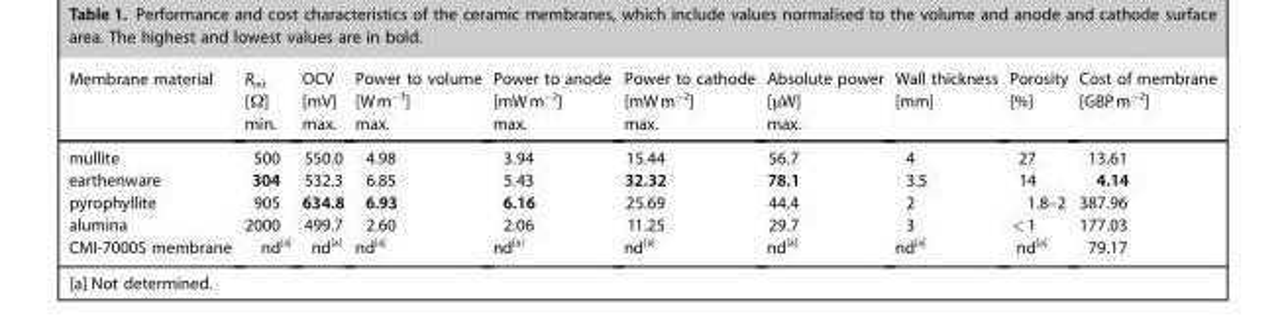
<table><thead><tr><td rowspan="2">Membrane material</td><td rowspan="2">R<sub>int</sub> [Ω] min.</td><td rowspan="2">OCV [mV] max.</td><td rowspan="2">Power to volume [Wm<sup>−3</sup>] max.</td><td rowspan="2">Power to anode [mWm<sup>−2</sup>] max.</td><td rowspan="2">Power to cathode [mWm<sup>−2</sup>] max.</td><td rowspan="2">Absolute power [μW] max.</td><td rowspan="2">Wall thickness [mm]</td><td rowspan="2">Porosity [%]</td><td rowspan="2">Cost of membrane [GBPm<sup>−2</sup>]</td></tr><tr></tr></thead><tbody><tr><td>mullite</td><td>500</td><td>550.0</td><td>4.98</td><td>3.94</td><td>15.44</td><td>56.7</td><td>4</td><td>27</td><td>13.61</td></tr><tr><td>earthenware</td><td>304</td><td>532.3</td><td>6.85</td><td>5.43</td><td>32.32</td><td>78.1</td><td>3.5</td><td>14</td><td>4.14</td></tr><tr><td>pyrophyllite</td><td>905</td><td>634.8</td><td>6.93</td><td>6.16</td><td>25.69</td><td>44.4</td><td>2</td><td>1.8–2</td><td>387.96</td></tr><tr><td>alumina</td><td>2000</td><td>499.7</td><td>2.60</td><td>2.06</td><td>11.25</td><td>29.7</td><td>3</td><td>&lt;1</td><td>177.03</td></tr><tr><td>CMI-7000S membrane</td><td>nd<sup>[a]</sup></td><td>nd<sup>[a]</sup></td><td>nd<sup>[a]</sup></td><td>nd<sup>[a]</sup></td><td>nd<sup>[a]</sup></td><td>nd<sup>[a]</sup></td><td>nd<sup>[a]</sup></td><td>nd<sup>[a]</sup></td><td>79.17</td></tr></tbody></table>